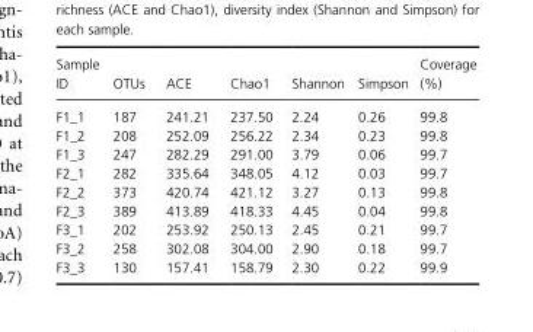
<table><thead><tr><td>Sample ID</td><td>OTUs</td><td>ACE</td><td>Chao1</td><td>Shannon</td><td>Simpson</td><td>Coverage (%)</td></tr></thead><tbody><tr><td>F1_1</td><td>187</td><td>241.21</td><td>237.50</td><td>2.24</td><td>0.26</td><td>99.8</td></tr><tr><td>F1_2</td><td>208</td><td>252.09</td><td>256.22</td><td>2.34</td><td>0.23</td><td>99.8</td></tr><tr><td>F1_3</td><td>247</td><td>282.29</td><td>291.00</td><td>3.79</td><td>0.06</td><td>99.7</td></tr><tr><td>F2_1</td><td>282</td><td>335.64</td><td>348.05</td><td>4.12</td><td>0.03</td><td>99.7</td></tr><tr><td>F2_2</td><td>373</td><td>420.74</td><td>421.12</td><td>3.27</td><td>0.13</td><td>99.8</td></tr><tr><td>F2_3</td><td>389</td><td>413.89</td><td>418.33</td><td>4.45</td><td>0.04</td><td>99.8</td></tr><tr><td>F3_1</td><td>202</td><td>253.92</td><td>250.13</td><td>2.45</td><td>0.21</td><td>99.7</td></tr><tr><td>F3_2</td><td>258</td><td>302.08</td><td>304.00</td><td>2.90</td><td>0.18</td><td>99.7</td></tr><tr><td>F3_3</td><td>130</td><td>157.41</td><td>158.79</td><td>2.30</td><td>0.22</td><td>99.9</td></tr></tbody></table>